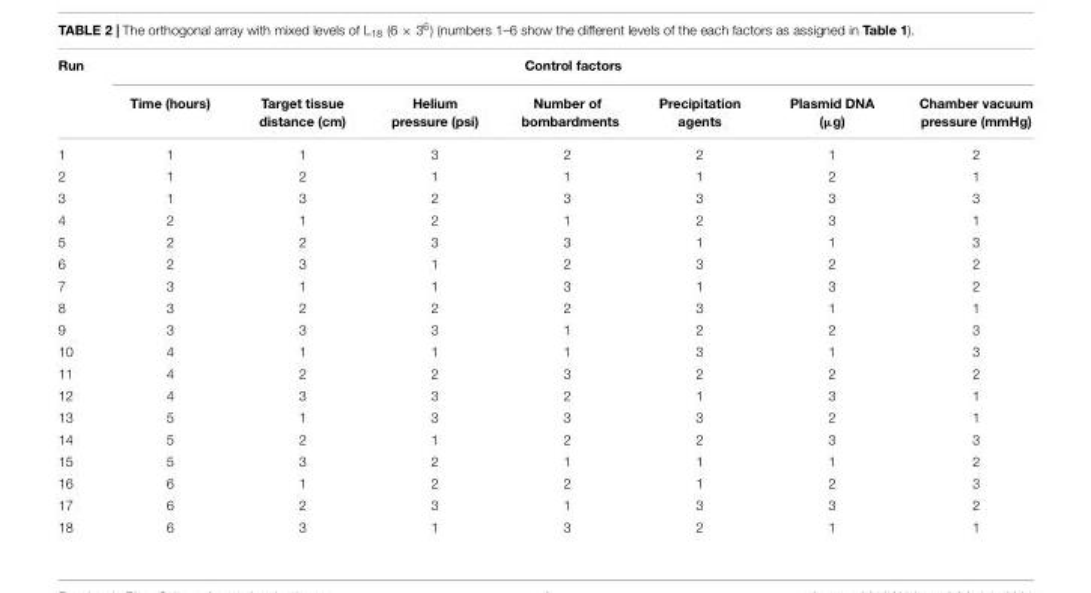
<table><thead><tr><td rowspan="2">Run</td><td colspan="7">Control factors</td></tr><tr><td>Time (hours)</td><td>Target tissue distance (cm)</td><td>Helium pressure (psi)</td><td>Number of bombardments</td><td>Precipitation agents</td><td>Plasmid DNA (µg)</td><td>Chamber vacuum pressure (mmHg)</td></tr></thead><tbody><tr><td>1</td><td>1</td><td>1</td><td>3</td><td>2</td><td>2</td><td>1</td><td>2</td></tr><tr><td>2</td><td>1</td><td>2</td><td>1</td><td>1</td><td>1</td><td>2</td><td>1</td></tr><tr><td>3</td><td>1</td><td>3</td><td>2</td><td>3</td><td>3</td><td>3</td><td>3</td></tr><tr><td>4</td><td>2</td><td>1</td><td>2</td><td>1</td><td>2</td><td>3</td><td>1</td></tr><tr><td>5</td><td>2</td><td>2</td><td>3</td><td>3</td><td>1</td><td>1</td><td>3</td></tr><tr><td>6</td><td>2</td><td>3</td><td>1</td><td>2</td><td>3</td><td>2</td><td>2</td></tr><tr><td>7</td><td>3</td><td>1</td><td>1</td><td>3</td><td>1</td><td>3</td><td>2</td></tr><tr><td>8</td><td>3</td><td>2</td><td>2</td><td>2</td><td>3</td><td>1</td><td>1</td></tr><tr><td>9</td><td>3</td><td>3</td><td>3</td><td>1</td><td>2</td><td>2</td><td>3</td></tr><tr><td>10</td><td>4</td><td>1</td><td>1</td><td>1</td><td>3</td><td>1</td><td>3</td></tr><tr><td>11</td><td>4</td><td>2</td><td>2</td><td>3</td><td>2</td><td>2</td><td>2</td></tr><tr><td>12</td><td>4</td><td>3</td><td>3</td><td>2</td><td>1</td><td>3</td><td>1</td></tr><tr><td>13</td><td>5</td><td>1</td><td>3</td><td>3</td><td>3</td><td>2</td><td>1</td></tr><tr><td>14</td><td>5</td><td>2</td><td>1</td><td>2</td><td>2</td><td>3</td><td>3</td></tr><tr><td>15</td><td>5</td><td>3</td><td>2</td><td>1</td><td>1</td><td>1</td><td>2</td></tr><tr><td>16</td><td>6</td><td>1</td><td>2</td><td>2</td><td>1</td><td>2</td><td>3</td></tr><tr><td>17</td><td>6</td><td>2</td><td>3</td><td>1</td><td>3</td><td>3</td><td>2</td></tr><tr><td>18</td><td>6</td><td>3</td><td>1</td><td>3</td><td>2</td><td>1</td><td>1</td></tr></tbody></table>